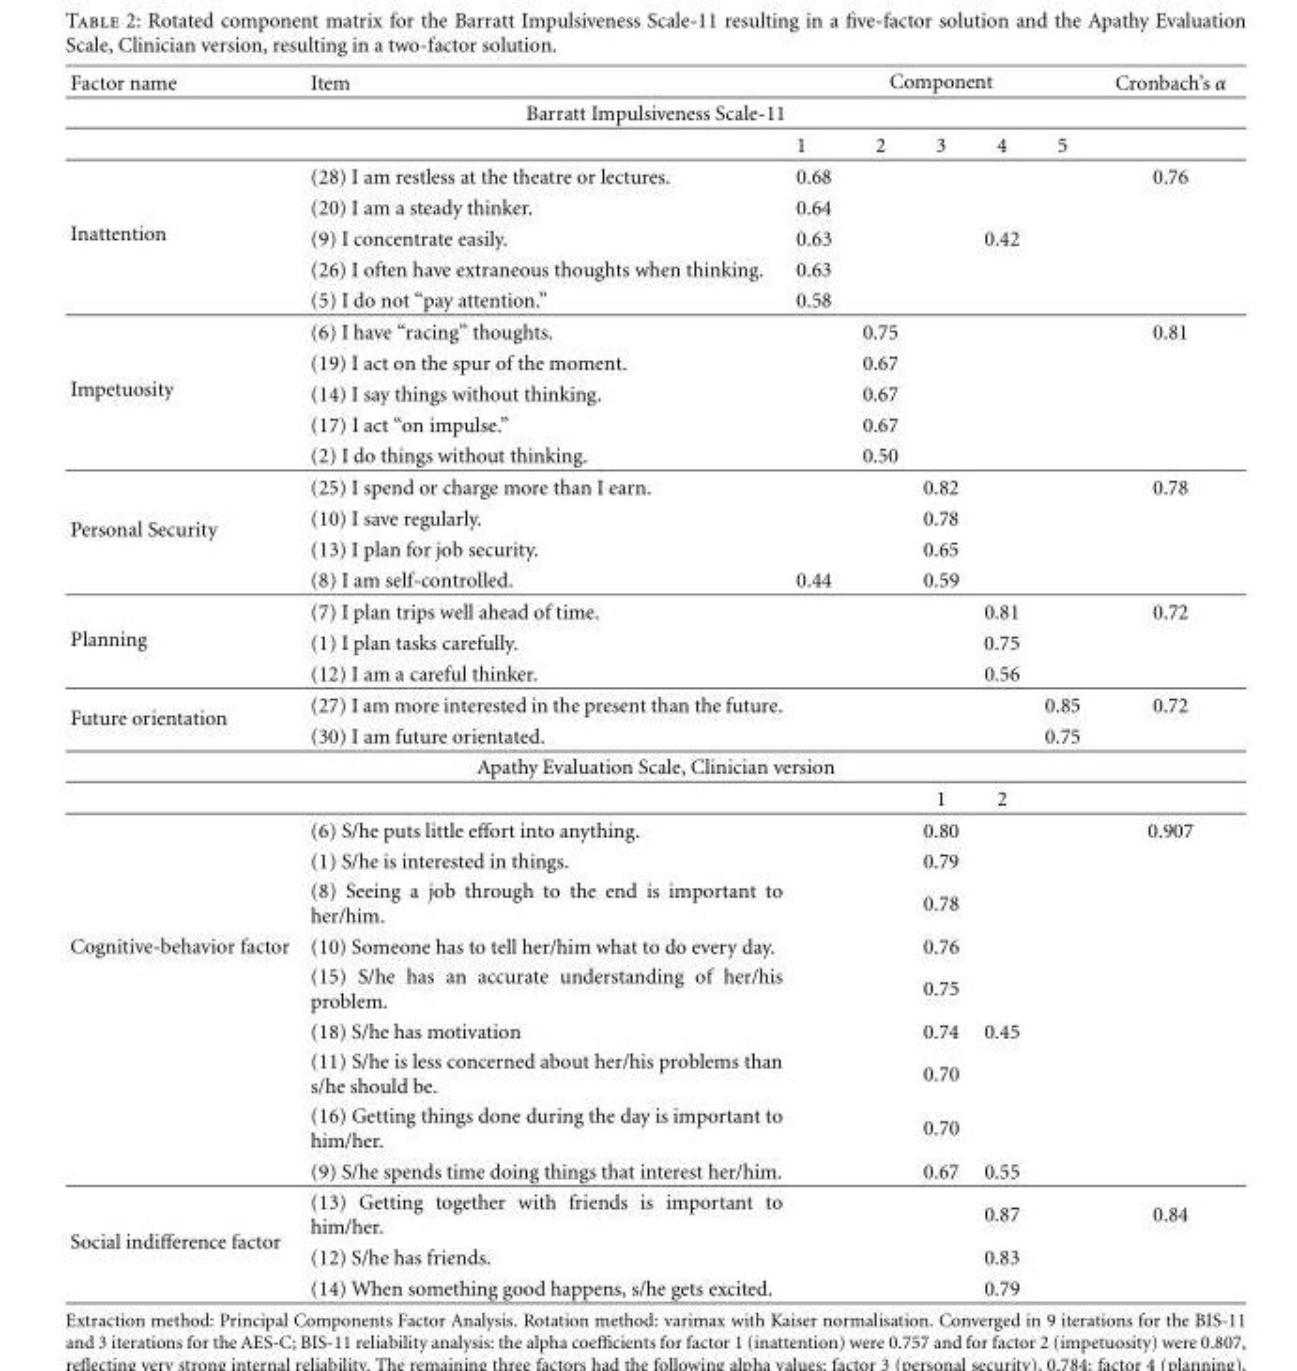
<table><thead><tr><td>Factor name</td><td>Item</td><td colspan="5">Component</td><td>Cronbach’s α</td></tr><tr><td colspan="8">Barratt Impulsiveness Scale-11</td></tr><tr><td></td><td></td><td>1</td><td>2</td><td>3</td><td>4</td><td>5</td><td></td></tr></thead><tbody><tr><td rowspan="5">Inattention</td><td>(28) I am restless at the theatre or lectures.</td><td>0.68</td><td></td><td></td><td></td><td></td><td>0.76</td></tr><tr><td>(20) I am a steady thinker.</td><td>0.64</td><td></td><td></td><td></td><td></td><td></td></tr><tr><td>(9) I concentrate easily.</td><td>0.63</td><td></td><td></td><td>0.42</td><td></td><td></td></tr><tr><td>(26) I often have extraneous thoughts when thinking.</td><td>0.63</td><td></td><td></td><td></td><td></td><td></td></tr><tr><td>(5) I do not “pay attention.”</td><td>0.58</td><td></td><td></td><td></td><td></td><td></td></tr><tr><td rowspan="5">Impetuosity</td><td>(6) I have “racing” thoughts.</td><td></td><td>0.75</td><td></td><td></td><td></td><td>0.81</td></tr><tr><td>(19) I act on the spur of the moment.</td><td></td><td>0.67</td><td></td><td></td><td></td><td></td></tr><tr><td>(14) I say things without thinking.</td><td></td><td>0.67</td><td></td><td></td><td></td><td></td></tr><tr><td>(17) I act “on impulse.”</td><td></td><td>0.67</td><td></td><td></td><td></td><td></td></tr><tr><td>(2) I do things without thinking.</td><td></td><td>0.50</td><td></td><td></td><td></td><td></td></tr><tr><td rowspan="4">Personal Security</td><td>(25) I spend or charge more than I earn.</td><td></td><td></td><td>0.82</td><td></td><td></td><td>0.78</td></tr><tr><td>(10) I save regularly.</td><td></td><td></td><td>0.78</td><td></td><td></td><td></td></tr><tr><td>(13) I plan for job security.</td><td></td><td></td><td>0.65</td><td></td><td></td><td></td></tr><tr><td>(8) I am self-controlled.</td><td>0.44</td><td></td><td>0.59</td><td></td><td></td><td></td></tr><tr><td rowspan="3">Planning</td><td>(7) I plan trips well ahead of time.</td><td></td><td></td><td></td><td>0.81</td><td></td><td>0.72</td></tr><tr><td>(1) I plan tasks carefully.</td><td></td><td></td><td></td><td>0.75</td><td></td><td></td></tr><tr><td>(12) I am a careful thinker.</td><td></td><td></td><td></td><td>0.56</td><td></td><td></td></tr><tr><td rowspan="2">Future orientation</td><td>(27) I am more interested in the present than the future.</td><td></td><td></td><td></td><td></td><td>0.85</td><td>0.72</td></tr><tr><td>(30) I am future orientated.</td><td></td><td></td><td></td><td></td><td>0.75</td><td></td></tr><tr><td colspan="8">Apathy Evaluation Scale, Clinician version</td></tr><tr><td></td><td></td><td></td><td></td><td>1</td><td>2</td><td></td><td></td></tr><tr><td rowspan="9">Cognitive-behavior factor</td><td>(6) S/he puts little effort into anything.</td><td></td><td></td><td>0.80</td><td></td><td></td><td>0.907</td></tr><tr><td>(1) S/he is interested in things.</td><td></td><td></td><td>0.79</td><td></td><td></td><td></td></tr><tr><td>(8) Seeing a job through to the end is important to her/him.</td><td></td><td></td><td>0.78</td><td></td><td></td><td></td></tr><tr><td>(10) Someone has to tell her/him what to do every day.</td><td></td><td></td><td>0.76</td><td></td><td></td><td></td></tr><tr><td>(15) S/he has an accurate understanding of her/his problem.</td><td></td><td></td><td>0.75</td><td></td><td></td><td></td></tr><tr><td>(18) S/he has motivation</td><td></td><td></td><td>0.74</td><td>0.45</td><td></td><td></td></tr><tr><td>(11) S/he is less concerned about her/his problems than s/he should be.</td><td></td><td></td><td>0.70</td><td></td><td></td><td></td></tr><tr><td>(16) Getting things done during the day is important to him/her.</td><td></td><td></td><td>0.70</td><td></td><td></td><td></td></tr><tr><td>(9) S/he spends time doing things that interest her/him.</td><td></td><td></td><td>0.67</td><td>0.55</td><td></td><td></td></tr><tr><td rowspan="3">Social indifference factor</td><td>(13) Getting together with friends is important to him/her.</td><td></td><td></td><td></td><td>0.87</td><td></td><td>0.84</td></tr><tr><td>(12) S/he has friends.</td><td></td><td></td><td></td><td>0.83</td><td></td><td></td></tr><tr><td>(14) When something good happens, s/he gets excited.</td><td></td><td></td><td></td><td>0.79</td><td></td><td></td></tr></tbody></table>